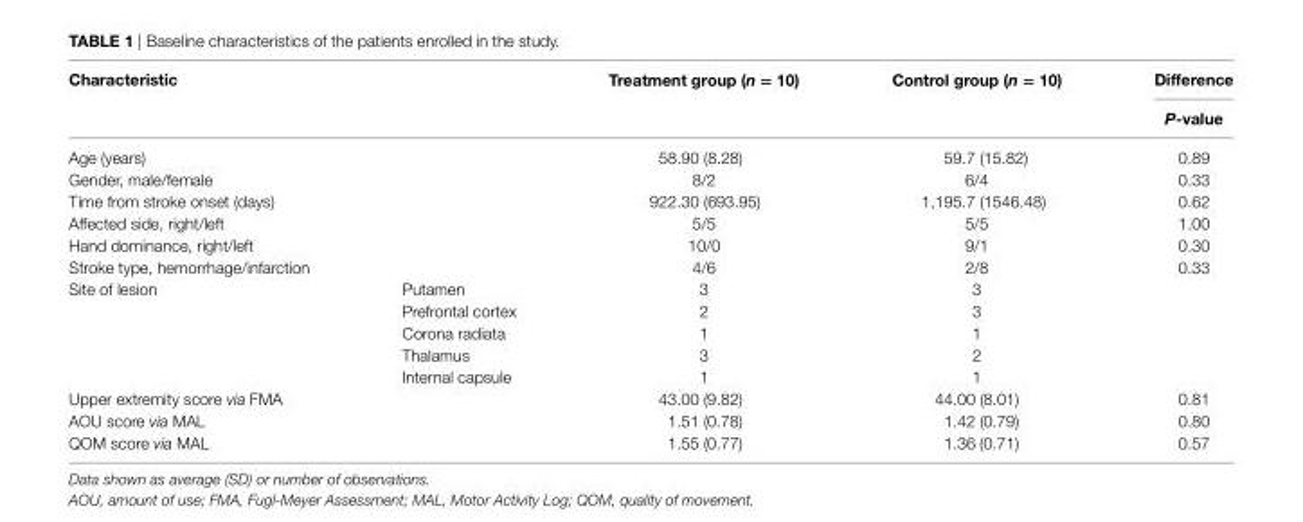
<table><thead><tr><td rowspan="2">Characteristic</td><td rowspan="2"></td><td rowspan="2">Treatment group (n = 10)</td><td rowspan="2">Control group (n = 10)</td><td rowspan="2">Difference P-value</td></tr><tr></tr></thead><tbody><tr><td>Age (years)</td><td></td><td>58.90 (8.28)</td><td>59.7 (15.82)</td><td>0.89</td></tr><tr><td>Gender, male/female</td><td></td><td>8/2</td><td>6/4</td><td>0.33</td></tr><tr><td>Time from stroke onset (days)</td><td></td><td>922.30 (693.95)</td><td>1,195.7 (1546.48)</td><td>0.62</td></tr><tr><td>Affected side, right/left</td><td></td><td>5/5</td><td>5/5</td><td>1.00</td></tr><tr><td>Hand dominance, right/left</td><td></td><td>10/0</td><td>9/1</td><td>0.30</td></tr><tr><td>Stroke type, hemorrhage/infarction</td><td></td><td>4/6</td><td>2/8</td><td>0.33</td></tr><tr><td rowspan="5">Site of lesion</td><td>Putamen</td><td>3</td><td>3</td><td></td></tr><tr><td>Prefrontal cortex</td><td>2</td><td>3</td><td></td></tr><tr><td>Corona radiata</td><td>1</td><td>1</td><td></td></tr><tr><td>Thalamus</td><td>3</td><td>2</td><td></td></tr><tr><td>Internal capsule</td><td>1</td><td>1</td><td></td></tr><tr><td>Upper extremity score via FMA</td><td></td><td>43.00 (9.82)</td><td>44.00 (8.01)</td><td>0.81</td></tr><tr><td>AOU score via MAL</td><td></td><td>1.51 (0.78)</td><td>1.42 (0.79)</td><td>0.80</td></tr><tr><td>QOM score via MAL</td><td></td><td>1.55 (0.77)</td><td>1.36 (0.71)</td><td>0.57</td></tr></tbody></table>